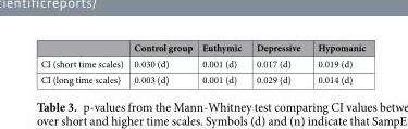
<table><thead><tr><td></td><td>Control group</td><td>Euthymic</td><td>Depressive</td><td>Hypomanic</td></tr></thead><tbody><tr><td>CI (short time scales)</td><td>0.030 (d)</td><td>0.001 (d)</td><td>0.017 (d)</td><td>0.019 (d)</td></tr><tr><td>CI (long time scales)</td><td>0.003 (d)</td><td>0.001 (d)</td><td>0.029 (d)</td><td>0.014 (d)</td></tr></tbody></table>